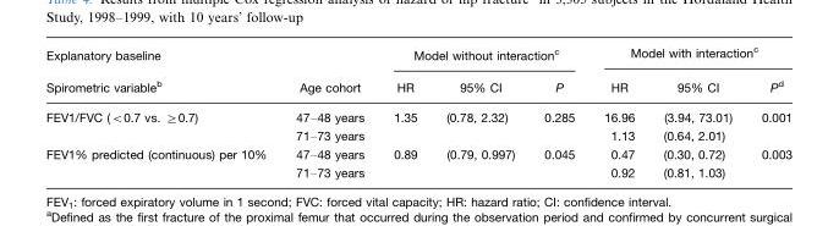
<table><thead><tr><td rowspan="2">Explanatory baseline Spirometric variable<sup>b</sup></td><td rowspan="2">Age cohort</td><td colspan="3">Model without interaction<sup>c</sup></td><td colspan="3">Model with interaction<sup>c</sup></td></tr><tr><td>HR</td><td>95% CI</td><td>P</td><td>HR</td><td>95% CI</td><td>Pd</td></tr></thead><tbody><tr><td rowspan="2">FEV1/FVC (&lt;0.7 vs. ≥0.7)</td><td>47–48 years</td><td>1.35</td><td>(0.78, 2.32)</td><td>0.285</td><td>16.96</td><td>(3.94, 73.01)</td><td>0.001</td></tr><tr><td>71–73 years</td><td></td><td></td><td></td><td>1.13</td><td>(0.64, 2.01)</td><td></td></tr><tr><td rowspan="2">FEV1% predicted (continuous) per 10%</td><td>47–48 years</td><td>0.89</td><td>(0.79, 0.997)</td><td>0.045</td><td>0.47</td><td>(0.30, 0.72)</td><td>0.003</td></tr><tr><td>71–73 years</td><td></td><td></td><td></td><td>0.92</td><td>(0.81, 1.03)</td><td></td></tr></tbody></table>